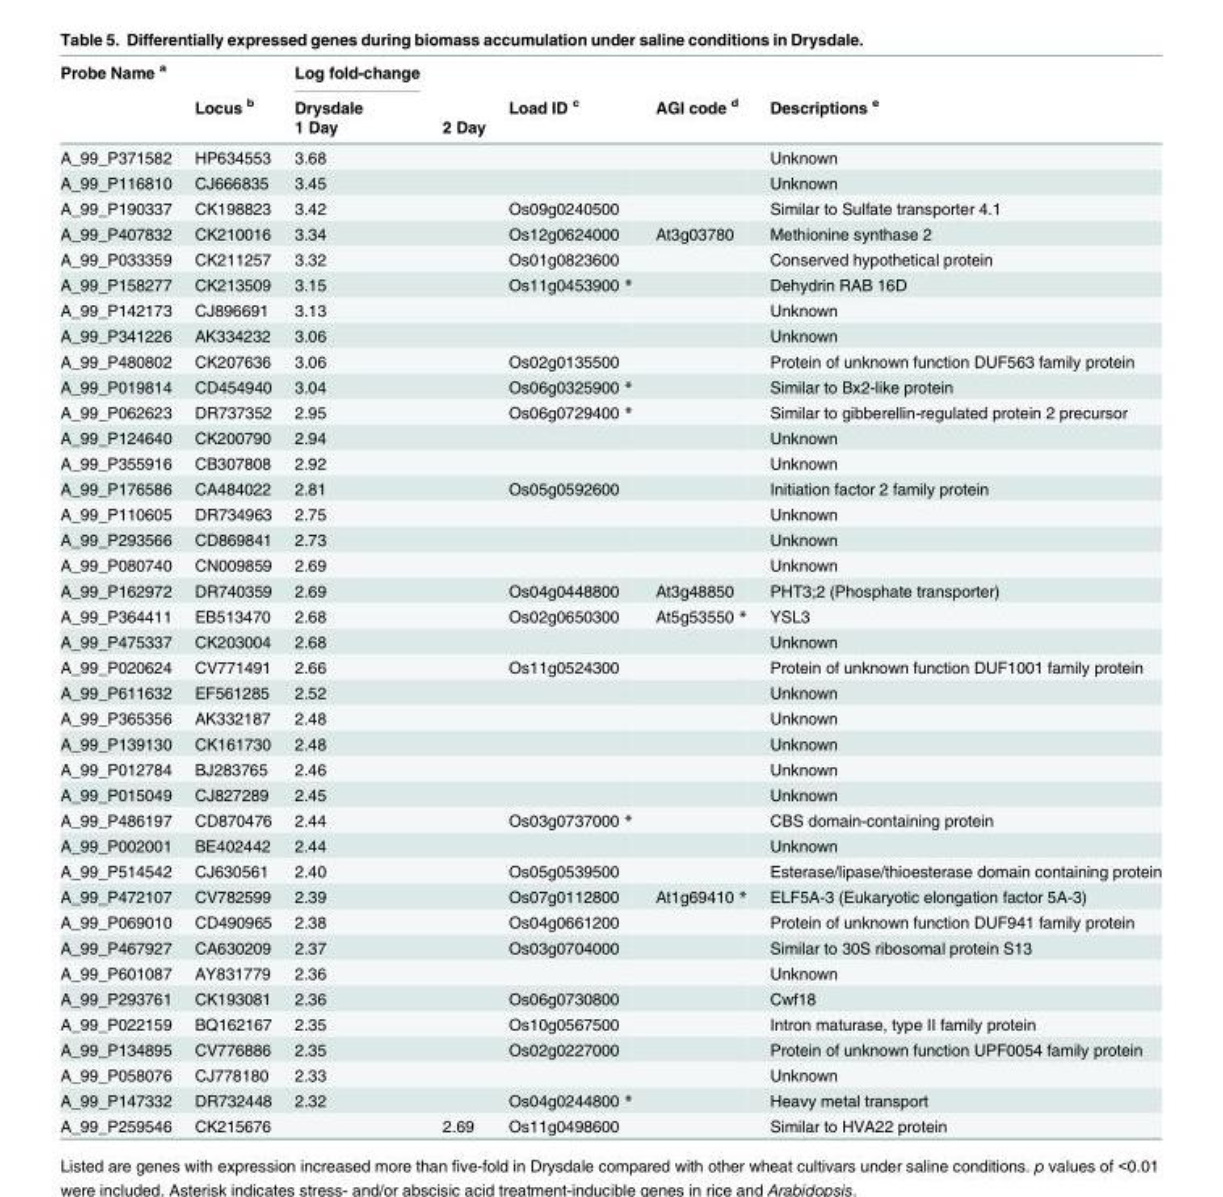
<table><thead><tr><td rowspan="3">Probe Name <sup>a</sup></td><td rowspan="3">Locus <sup>b</sup></td><td rowspan="3">Log fold-change Drysdale 1 Day</td><td rowspan="3">2 Day</td><td rowspan="3">Load ID <sup>c</sup></td><td rowspan="3">AGI code <sup>d</sup></td><td rowspan="3">Descriptions <sup>e</sup></td></tr><tr></tr><tr></tr></thead><tbody><tr><td>A_99_P371582</td><td>HP634553</td><td>3.68</td><td></td><td></td><td></td><td>Unknown</td></tr><tr><td>A_99_P116810</td><td>CJ666835</td><td>3.45</td><td></td><td></td><td></td><td>Unknown</td></tr><tr><td>A_99_P190337</td><td>CK198823</td><td>3.42</td><td></td><td>Os09g0240500</td><td></td><td>Similar to Sulfate transporter 4.1</td></tr><tr><td>A_99_P407832</td><td>CK210016</td><td>3.34</td><td></td><td>Os12g0624000</td><td>At3g03780</td><td>Methionine synthase 2</td></tr><tr><td>A_99_P033359</td><td>CK211257</td><td>3.32</td><td></td><td>Os01g0823600</td><td></td><td>Conserved hypothetical protein</td></tr><tr><td>A_99_P158277</td><td>CK213509</td><td>3.15</td><td></td><td>Os11g0453900 *</td><td></td><td>Dehydrin RAB 16D</td></tr><tr><td>A_99_P142173</td><td>CJ896691</td><td>3.13</td><td></td><td></td><td></td><td>Unknown</td></tr><tr><td>A_99_P341226</td><td>AK334232</td><td>3.06</td><td></td><td></td><td></td><td>Unknown</td></tr><tr><td>A_99_P480802</td><td>CK207636</td><td>3.06</td><td></td><td>Os02g0135500</td><td></td><td>Protein of unknown function DUF563 family protein</td></tr><tr><td>A_99_P019814</td><td>CD454940</td><td>3.04</td><td></td><td>Os06g0325900 *</td><td></td><td>Similar to Bx2-like protein</td></tr><tr><td>A_99_P062623</td><td>DR737352</td><td>2.95</td><td></td><td>Os06g0729400 *</td><td></td><td>Similar to gibberellin-regulated protein 2 precursor</td></tr><tr><td>A_99_P124640</td><td>CK200790</td><td>2.94</td><td></td><td></td><td></td><td>Unknown</td></tr><tr><td>A_99_P355916</td><td>CB307808</td><td>2.92</td><td></td><td></td><td></td><td>Unknown</td></tr><tr><td>A_99_P176586</td><td>CA484022</td><td>2.81</td><td></td><td>Os05g0592600</td><td></td><td>Initiation factor 2 family protein</td></tr><tr><td>A_99_P110605</td><td>DR734963</td><td>2.75</td><td></td><td></td><td></td><td>Unknown</td></tr><tr><td>A_99_P293566</td><td>CD869841</td><td>2.73</td><td></td><td></td><td></td><td>Unknown</td></tr><tr><td>A_99_P080740</td><td>CN009859</td><td>2.69</td><td></td><td></td><td></td><td>Unknown</td></tr><tr><td>A_99_P162972</td><td>DR740359</td><td>2.69</td><td></td><td>Os04g0448800</td><td>At3g48850</td><td>PHT3;2 (Phosphate transporter)</td></tr><tr><td>A_99_P364411</td><td>EB513470</td><td>2.68</td><td></td><td>Os02g0650300</td><td>At5g53550 *</td><td>YSL3</td></tr><tr><td>A_99_P475337</td><td>CK203004</td><td>2.68</td><td></td><td></td><td></td><td>Unknown</td></tr><tr><td>A_99_P020624</td><td>CV771491</td><td>2.66</td><td></td><td>Os11g0524300</td><td></td><td>Protein of unknown function DUF1001 family protein</td></tr><tr><td>A_99_P611632</td><td>EF561285</td><td>2.52</td><td></td><td></td><td></td><td>Unknown</td></tr><tr><td>A_99_P365356</td><td>AK332187</td><td>2.48</td><td></td><td></td><td></td><td>Unknown</td></tr><tr><td>A_99_P139130</td><td>CK161730</td><td>2.48</td><td></td><td></td><td></td><td>Unknown</td></tr><tr><td>A_99_P012784</td><td>BJ283765</td><td>2.46</td><td></td><td></td><td></td><td>Unknown</td></tr><tr><td>A_99_P015049</td><td>CJ827289</td><td>2.45</td><td></td><td></td><td></td><td>Unknown</td></tr><tr><td>A_99_P486197</td><td>CD870476</td><td>2.44</td><td></td><td>Os03g0737000 *</td><td></td><td>CBS domain-containing protein</td></tr><tr><td>A_99_P002001</td><td>BE402442</td><td>2.44</td><td></td><td></td><td></td><td>Unknown</td></tr><tr><td>A_99_P514542</td><td>CJ630561</td><td>2.40</td><td></td><td>Os05g0539500</td><td></td><td>Esterase/lipase/thioesterase domain containing protein</td></tr><tr><td>A_99_P472107</td><td>CV782599</td><td>2.39</td><td></td><td>Os07g0112800</td><td>At1g69410 *</td><td>ELF5A-3 (Eukaryotic elongation factor 5A-3)</td></tr><tr><td>A_99_P069010</td><td>CD490965</td><td>2.38</td><td></td><td>Os04g0661200</td><td></td><td>Protein of unknown function DUF941 family protein</td></tr><tr><td>A_99_P467927</td><td>CA630209</td><td>2.37</td><td></td><td>Os03g0704000</td><td></td><td>Similar to 30S ribosomal protein S13</td></tr><tr><td>A_99_P601087</td><td>AY831779</td><td>2.36</td><td></td><td></td><td></td><td>Unknown</td></tr><tr><td>A_99_P293761</td><td>CK193081</td><td>2.36</td><td></td><td>Os06g0730800</td><td></td><td>Cwf18</td></tr><tr><td>A_99_P022159</td><td>BQ162167</td><td>2.35</td><td></td><td>Os10g0567500</td><td></td><td>Intron maturase, type II family protein</td></tr><tr><td>A_99_P134895</td><td>CV776886</td><td>2.35</td><td></td><td>Os02g0227000</td><td></td><td>Protein of unknown function UPF0054 family protein</td></tr><tr><td>A_99_P058076</td><td>CJ778180</td><td>2.33</td><td></td><td></td><td></td><td>Unknown</td></tr><tr><td>A_99_P147332</td><td>DR732448</td><td>2.32</td><td></td><td>Os04g0244800 *</td><td></td><td>Heavy metal transport</td></tr><tr><td>A_99_P259546</td><td>CK215676</td><td></td><td>2.69</td><td>Os11g0498600</td><td></td><td>Similar to HVA22 protein</td></tr></tbody></table>